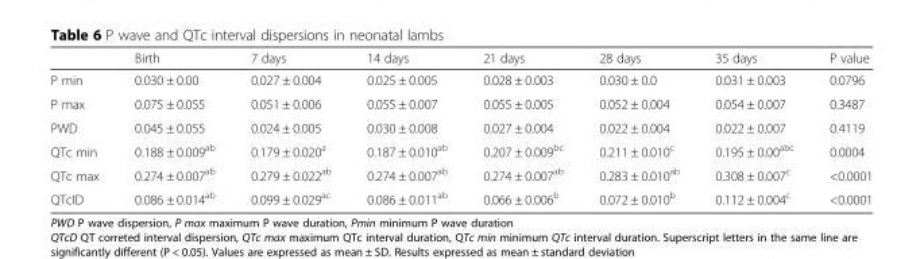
<table><thead><tr><td></td><td>Birth</td><td>7 days</td><td>14 days</td><td>21 days</td><td>28 days</td><td>35 days</td><td>P value</td></tr></thead><tbody><tr><td>P min</td><td>0.030 ± 0.00</td><td>0.027 ± 0.004</td><td>0.025 ± 0.005</td><td>0.028 ± 0.003</td><td>0.030 ± 0.0</td><td>0.031 ± 0.003</td><td>0.0796</td></tr><tr><td>P max</td><td>0.075 ± 0.055</td><td>0.051 ± 0.006</td><td>0.055 ± 0.007</td><td>0.055 ± 0.005</td><td>0.052 ± 0.004</td><td>0.054 ± 0.007</td><td>0.3487</td></tr><tr><td>PWD</td><td>0.045 ± 0.055</td><td>0.024 ± 0.005</td><td>0.030 ± 0.008</td><td>0.027 ± 0.004</td><td>0.022 ± 0.004</td><td>0.022 ± 0.007</td><td>0.4119</td></tr><tr><td>QTc min</td><td>0.188 ± 0.009<sup>ab</sup></td><td>0.179 ± 0.020<sup>a</sup></td><td>0.187 ± 0.010<sup>ab</sup></td><td>0.207 ± 0.009<sup>bc</sup></td><td>0.211 ± 0.010<sup>c</sup></td><td>0.195 ± 0.00<sup>abc</sup></td><td>0.0004</td></tr><tr><td>QTc max</td><td>0.274 ± 0.007<sup>ab</sup></td><td>0.279 ± 0.022<sup>ab</sup></td><td>0.274 ± 0.007<sup>ab</sup></td><td>0.274 ± 0.007<sup>ab</sup></td><td>0.283 ± 0.010<sup>ab</sup></td><td>0.308 ± 0.007<sup>c</sup></td><td>&lt;0.0001</td></tr><tr><td>QTcID</td><td>0.086 ± 0.014<sup>ab</sup></td><td>0.099 ± 0.029<sup>ac</sup></td><td>0.086 ± 0.011<sup>ab</sup></td><td>0.066 ± 0.006<sup>b</sup></td><td>0.072 ± 0.010<sup>b</sup></td><td>0.112 ± 0.004<sup>c</sup></td><td>&lt;0.0001</td></tr></tbody></table>